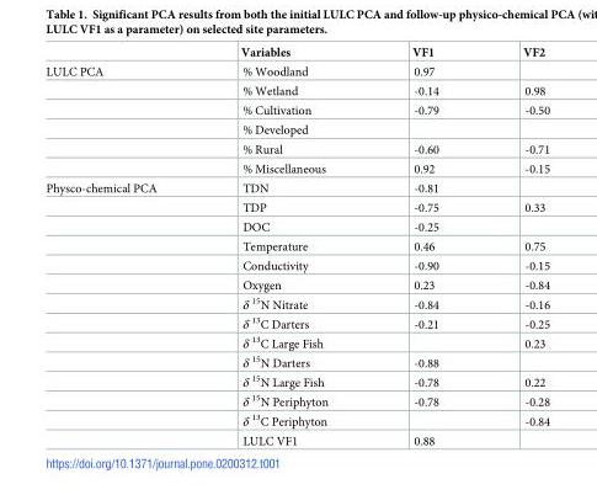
<table><thead><tr><td></td><td>Variables</td><td>VF1</td><td>VF2</td></tr></thead><tbody><tr><td rowspan="6">LULC PCA</td><td>% Woodland</td><td>0.97</td><td></td></tr><tr><td>% Wetland</td><td>-0.14</td><td>0.98</td></tr><tr><td>% Cultivation</td><td>-0.79</td><td>-0.50</td></tr><tr><td>% Developed</td><td></td><td></td></tr><tr><td>% Rural</td><td>-0.60</td><td>-0.71</td></tr><tr><td>% Miscellaneous</td><td>0.92</td><td>-0.15</td></tr><tr><td rowspan="14">Physco-chemical PCA</td><td>TDN</td><td>-0.81</td><td></td></tr><tr><td>TDP</td><td>-0.75</td><td>0.33</td></tr><tr><td>DOC</td><td>-0.25</td><td></td></tr><tr><td>Temperature</td><td>0.46</td><td>0.75</td></tr><tr><td>Conductivity</td><td>-0.90</td><td>-0.15</td></tr><tr><td>Oxygen</td><td>0.23</td><td>-0.84</td></tr><tr><td>δ <sup>15</sup>N Nitrate</td><td>-0.84</td><td>-0.16</td></tr><tr><td>δ <sup>13</sup>C Darters</td><td>-0.21</td><td>-0.25</td></tr><tr><td>δ <sup>13</sup>C Large Fish</td><td></td><td>0.23</td></tr><tr><td>δ <sup>15</sup>N Darters</td><td>-0.88</td><td></td></tr><tr><td>δ <sup>15</sup>N Large Fish</td><td>-0.78</td><td>0.22</td></tr><tr><td>δ <sup>15</sup>N Periphyton</td><td>-0.78</td><td>-0.28</td></tr><tr><td>δ <sup>13</sup>C Periphyton</td><td></td><td>-0.84</td></tr><tr><td>LULC VF1</td><td>0.88</td><td></td></tr></tbody></table>